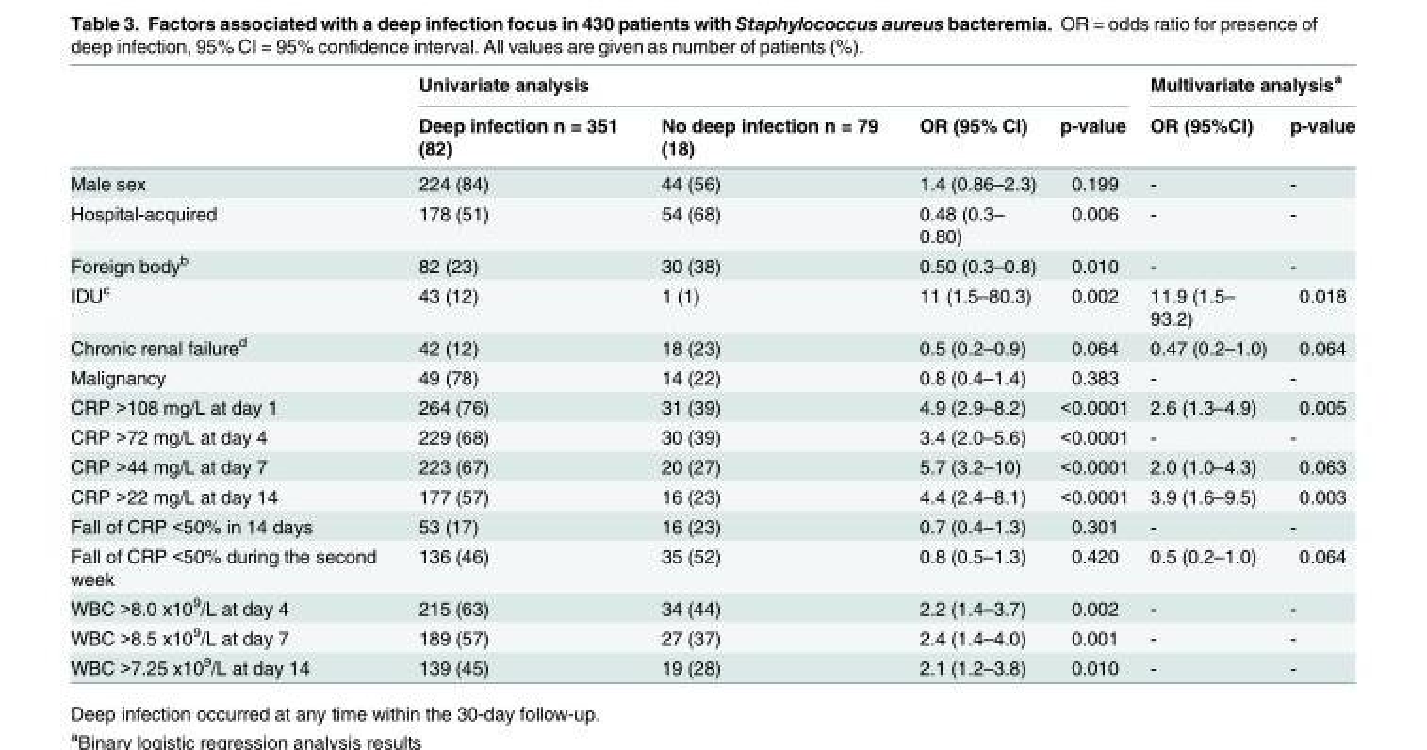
<table><thead><tr><td rowspan="2"></td><td colspan="4">Univariate analysis</td><td colspan="2">Multivariate analysis<sup>a</sup></td></tr><tr><td>Deep infection n = 351 (82)</td><td>No deep infection n = 79 (18)</td><td>OR (95% CI)</td><td>p-value</td><td>OR (95%CI)</td><td>p-value</td></tr></thead><tbody><tr><td>Male sex</td><td>224 (84)</td><td>44 (56)</td><td>1.4 (0.86–2.3)</td><td>0.199</td><td>-</td><td>-</td></tr><tr><td>Hospital-acquired</td><td>178 (51)</td><td>54 (68)</td><td>0.48 (0.3– 0.80)</td><td>0.006</td><td>-</td><td>-</td></tr><tr><td>Foreign body<sup>b</sup></td><td>82 (23)</td><td>30 (38)</td><td>0.50 (0.3–0.8)</td><td>0.010</td><td>-</td><td>-</td></tr><tr><td>IDU<sup>c</sup></td><td>43 (12)</td><td>1 (1)</td><td>11 (1.5–80.3)</td><td>0.002</td><td>11.9 (1.5– 93.2)</td><td>0.018</td></tr><tr><td>Chronic renal failure<sup>d</sup></td><td>42 (12)</td><td>18 (23)</td><td>0.5 (0.2–0.9)</td><td>0.064</td><td>0.47 (0.2–1.0)</td><td>0.064</td></tr><tr><td>Malignancy</td><td>49 (78)</td><td>14 (22)</td><td>0.8 (0.4–1.4)</td><td>0.383</td><td>-</td><td>-</td></tr><tr><td>CRP &gt;108 mg/L at day 1</td><td>264 (76)</td><td>31 (39)</td><td>4.9 (2.9–8.2)</td><td>&lt;0.0001</td><td>2.6 (1.3–4.9)</td><td>0.005</td></tr><tr><td>CRP &gt;72 mg/L at day 4</td><td>229 (68)</td><td>30 (39)</td><td>3.4 (2.0–5.6)</td><td>&lt;0.0001</td><td>-</td><td>-</td></tr><tr><td>CRP &gt;44 mg/L at day 7</td><td>223 (67)</td><td>20 (27)</td><td>5.7 (3.2–10)</td><td>&lt;0.0001</td><td>2.0 (1.0–4.3)</td><td>0.063</td></tr><tr><td>CRP &gt;22 mg/L at day 14</td><td>177 (57)</td><td>16 (23)</td><td>4.4 (2.4–8.1)</td><td>&lt;0.0001</td><td>3.9 (1.6–9.5)</td><td>0.003</td></tr><tr><td>Fall of CRP &lt;50% in 14 days</td><td>53 (17)</td><td>16 (23)</td><td>0.7 (0.4–1.3)</td><td>0.301</td><td>-</td><td>-</td></tr><tr><td>Fall of CRP &lt;50% during the second week</td><td>136 (46)</td><td>35 (52)</td><td>0.8 (0.5–1.3)</td><td>0.420</td><td>0.5 (0.2–1.0)</td><td>0.064</td></tr><tr><td>WBC &gt;8.0 x10<sup>9</sup>/L at day 4</td><td>215 (63)</td><td>34 (44)</td><td>2.2 (1.4–3.7)</td><td>0.002</td><td>-</td><td>-</td></tr><tr><td>WBC &gt;8.5 x10<sup>9</sup>/L at day 7</td><td>189 (57)</td><td>27 (37)</td><td>2.4 (1.4–4.0)</td><td>0.001</td><td>-</td><td>-</td></tr><tr><td>WBC &gt;7.25 x10<sup>9</sup>/L at day 14</td><td>139 (45)</td><td>19 (28)</td><td>2.1 (1.2–3.8)</td><td>0.010</td><td>-</td><td>-</td></tr></tbody></table>